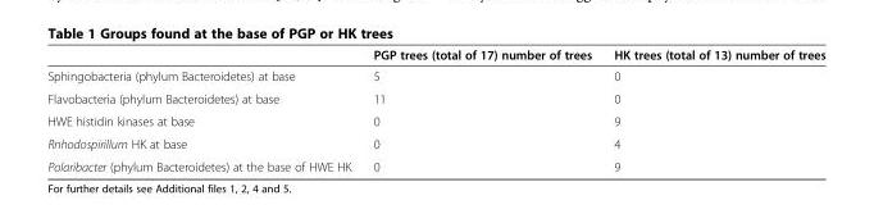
<table><thead><tr><td></td><td>PGP trees (total of 17) number of trees</td><td>HK trees (total of 13) number of trees</td></tr></thead><tbody><tr><td>Sphingobacteria (phylum Bacteroidetes) at base</td><td>5</td><td>0</td></tr><tr><td>Flavobacteria (phylum Bacteroidetes) at base</td><td>11</td><td>0</td></tr><tr><td>HWE histidin kinases at base</td><td>0</td><td>9</td></tr><tr><td>Rnhodospirillum HK at base</td><td>0</td><td>4</td></tr><tr><td>Polaribacter (phylum Bacteroidetes) at the base of HWE HK</td><td>0</td><td>9</td></tr></tbody></table>